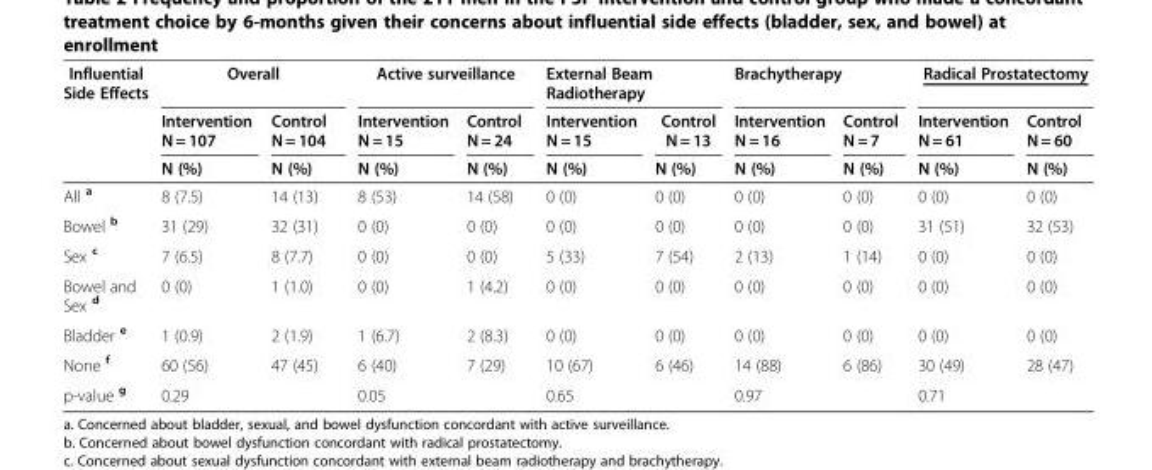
<table><thead><tr><td rowspan="3">Influential Side Effects</td><td colspan="2">Overall</td><td colspan="2">Active surveillance</td><td colspan="2">External Beam Radiotherapy</td><td colspan="2">Brachytherapy</td><td colspan="2">Radical Prostatectomy</td></tr><tr><td rowspan="2">Intervention N = 107 N (%)</td><td rowspan="2">Control N = 104 N (%)</td><td rowspan="2">Intervention N = 15 N (%)</td><td rowspan="2">Control N = 24 N (%)</td><td rowspan="2">Intervention N = 15 N (%)</td><td rowspan="2">Control N = 13 N (%)</td><td rowspan="2">Intervention N = 16 N (%)</td><td rowspan="2">Control N = 7 N (%)</td><td rowspan="2">Intervention N = 61 N (%)</td><td rowspan="2">Control N = 60 N (%)</td></tr><tr></tr></thead><tbody><tr><td>All <sup>a</sup></td><td>8 (7.5)</td><td>14 (13)</td><td>8 (53)</td><td>14 (58)</td><td>0 (0)</td><td>0 (0)</td><td>0 (0)</td><td>0 (0)</td><td>0 (0)</td><td>0 (0)</td></tr><tr><td>Bowel <sup>b</sup></td><td>31 (29)</td><td>32 (31)</td><td>0 (0)</td><td>0 (0)</td><td>0 (0)</td><td>0 (0)</td><td>0 (0)</td><td>0 (0)</td><td>31 (51)</td><td>32 (53)</td></tr><tr><td>Sex <sup>c</sup></td><td>7 (6.5)</td><td>8 (7.7)</td><td>0 (0)</td><td>0 (0)</td><td>5 (33)</td><td>7 (54)</td><td>2 (13)</td><td>1 (14)</td><td>0 (0)</td><td>0 (0)</td></tr><tr><td>Bowel and Sex <sup>d</sup></td><td>0 (0)</td><td>1 (1.0)</td><td>0 (0)</td><td>1 (4.2)</td><td>0 (0)</td><td>0 (0)</td><td>0 (0)</td><td>0 (0)</td><td>0 (0)</td><td>0 (0)</td></tr><tr><td>Bladder <sup>e</sup></td><td>1 (0.9)</td><td>2 (1.9)</td><td>1 (6.7)</td><td>2 (8.3)</td><td>0 (0)</td><td>0 (0)</td><td>0 (0)</td><td>0 (0)</td><td>0 (0)</td><td>0 (0)</td></tr><tr><td>None <sup>f</sup></td><td>60 (56)</td><td>47 (45)</td><td>6 (40)</td><td>7 (29)</td><td>10 (67)</td><td>6 (46)</td><td>14 (88)</td><td>6 (86)</td><td>30 (49)</td><td>28 (47)</td></tr><tr><td>p-value <sup>g</sup></td><td colspan="2">0.29</td><td colspan="2">0.05</td><td colspan="2">0.65</td><td colspan="2">0.97</td><td colspan="2">0.71</td></tr></tbody></table>